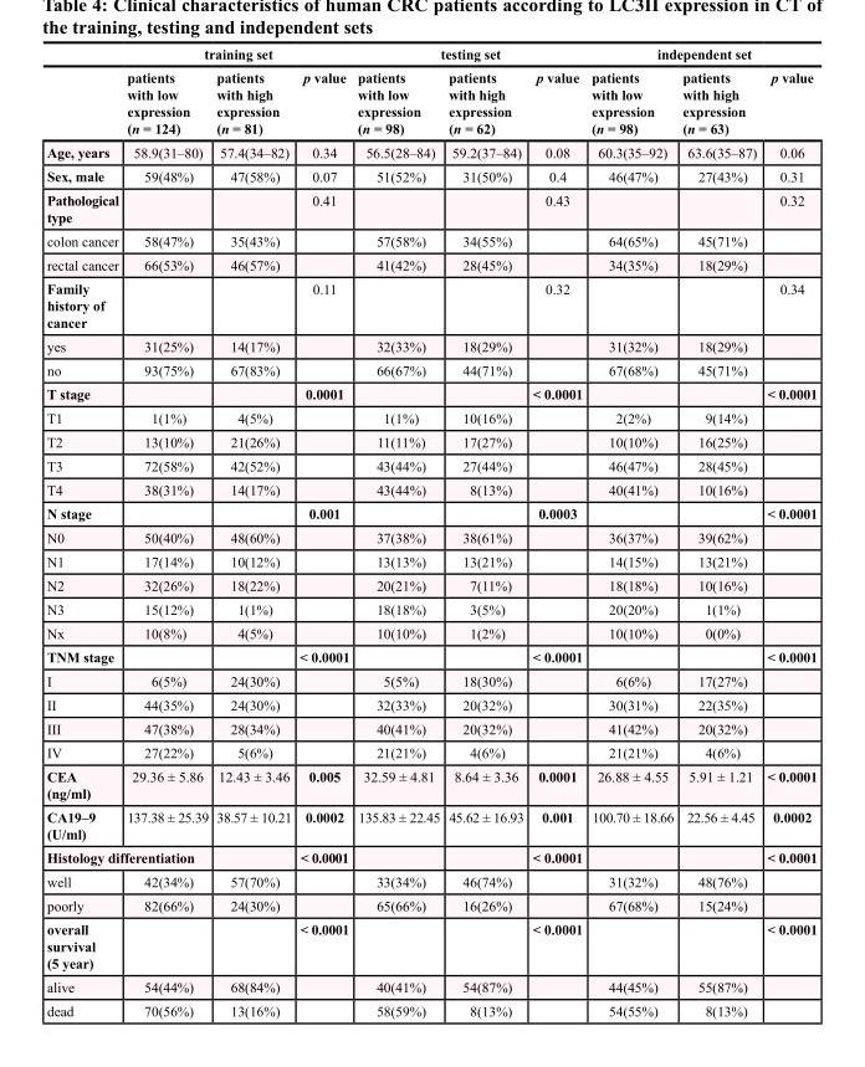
<table><thead><tr><td rowspan="2"></td><td colspan="3">training set</td><td colspan="3">testing set</td><td colspan="3">independent set</td></tr><tr><td>patients with low expression (n = 124)</td><td>patients with high expression (n = 81)</td><td>p value</td><td>patients with low expression (n = 98)</td><td>patients with high expression (n = 62)</td><td>p value</td><td>patients with low expression (n = 98)</td><td>patients with high expression (n = 63)</td><td>p value</td></tr></thead><tbody><tr><td>Age, years</td><td>58.9(31–80)</td><td>57.4(34–82)</td><td>0.34</td><td>56.5(28–84)</td><td>59.2(37–84)</td><td>0.08</td><td>60.3(35–92)</td><td>63.6(35–87)</td><td>0.06</td></tr><tr><td>Sex, male</td><td>59(48%)</td><td>47(58%)</td><td>0.07</td><td>51(52%)</td><td>31(50%)</td><td>0.4</td><td>46(47%)</td><td>27(43%)</td><td>0.31</td></tr><tr><td>Pathological type</td><td></td><td></td><td>0.41</td><td></td><td></td><td>0.43</td><td></td><td></td><td>0.32</td></tr><tr><td>colon cancer</td><td>58(47%)</td><td>35(43%)</td><td></td><td>57(58%)</td><td>34(55%)</td><td></td><td>64(65%)</td><td>45(71%)</td><td></td></tr><tr><td>rectal cancer</td><td>66(53%)</td><td>46(57%)</td><td></td><td>41(42%)</td><td>28(45%)</td><td></td><td>34(35%)</td><td>18(29%)</td><td></td></tr><tr><td>Family history of cancer</td><td></td><td></td><td>0.11</td><td></td><td></td><td>0.32</td><td></td><td></td><td>0.34</td></tr><tr><td>yes</td><td>31(25%)</td><td>14(17%)</td><td></td><td>32(33%)</td><td>18(29%)</td><td></td><td>31(32%)</td><td>18(29%)</td><td></td></tr><tr><td>no</td><td>93(75%)</td><td>67(83%)</td><td></td><td>66(67%)</td><td>44(71%)</td><td></td><td>67(68%)</td><td>45(71%)</td><td></td></tr><tr><td>T stage</td><td></td><td></td><td>0.0001</td><td></td><td></td><td>&lt; 0.0001</td><td></td><td></td><td>&lt; 0.0001</td></tr><tr><td>T1</td><td>1(1%)</td><td>4(5%)</td><td></td><td>1(1%)</td><td>10(16%)</td><td></td><td>2(2%)</td><td>9(14%)</td><td></td></tr><tr><td>T2</td><td>13(10%)</td><td>21(26%)</td><td></td><td>11(11%)</td><td>17(27%)</td><td></td><td>10(10%)</td><td>16(25%)</td><td></td></tr><tr><td>T3</td><td>72(58%)</td><td>42(52%)</td><td></td><td>43(44%)</td><td>27(44%)</td><td></td><td>46(47%)</td><td>28(45%)</td><td></td></tr><tr><td>T4</td><td>38(31%)</td><td>14(17%)</td><td></td><td>43(44%)</td><td>8(13%)</td><td></td><td>40(41%)</td><td>10(16%)</td><td></td></tr><tr><td>N stage</td><td></td><td></td><td>0.001</td><td></td><td></td><td>0.0003</td><td></td><td></td><td>&lt; 0.0001</td></tr><tr><td>N0</td><td>50(40%)</td><td>48(60%)</td><td></td><td>37(38%)</td><td>38(61%)</td><td></td><td>36(37%)</td><td>39(62%)</td><td></td></tr><tr><td>N1</td><td>17(14%)</td><td>10(12%)</td><td></td><td>13(13%)</td><td>13(21%)</td><td></td><td>14(15%)</td><td>13(21%)</td><td></td></tr><tr><td>N2</td><td>32(26%)</td><td>18(22%)</td><td></td><td>20(21%)</td><td>7(11%)</td><td></td><td>18(18%)</td><td>10(16%)</td><td></td></tr><tr><td>N3</td><td>15(12%)</td><td>1(1%)</td><td></td><td>18(18%)</td><td>3(5%)</td><td></td><td>20(20%)</td><td>1(1%)</td><td></td></tr><tr><td>Nx</td><td>10(8%)</td><td>4(5%)</td><td></td><td>10(10%)</td><td>1(2%)</td><td></td><td>10(10%)</td><td>0(0%)</td><td></td></tr><tr><td>TNM stage</td><td></td><td></td><td>&lt; 0.0001</td><td></td><td></td><td>&lt; 0.0001</td><td></td><td></td><td>&lt; 0.0001</td></tr><tr><td>I</td><td>6(5%)</td><td>24(30%)</td><td></td><td>5(5%)</td><td>18(30%)</td><td></td><td>6(6%)</td><td>17(27%)</td><td></td></tr><tr><td>II</td><td>44(35%)</td><td>24(30%)</td><td></td><td>32(33%)</td><td>20(32%)</td><td></td><td>30(31%)</td><td>22(35%)</td><td></td></tr><tr><td>III</td><td>47(38%)</td><td>28(34%)</td><td></td><td>40(41%)</td><td>20(32%)</td><td></td><td>41(42%)</td><td>20(32%)</td><td></td></tr><tr><td>IV</td><td>27(22%)</td><td>5(6%)</td><td></td><td>21(21%)</td><td>4(6%)</td><td></td><td>21(21%)</td><td>4(6%)</td><td></td></tr><tr><td>CEA (ng/ml)</td><td>29.36 ± 5.86</td><td>12.43 ± 3.46</td><td>0.005</td><td>32.59 ± 4.81</td><td>8.64 ± 3.36</td><td>0.0001</td><td>26.88 ± 4.55</td><td>5.91 ± 1.21</td><td>&lt; 0.0001</td></tr><tr><td>CA19–9 (U/ml)</td><td>137.38 ± 25.39</td><td>38.57 ± 10.21</td><td>0.0002</td><td>135.83 ± 22.45</td><td>45.62 ± 16.93</td><td>0.001</td><td>100.70 ± 18.66</td><td>22.56 ± 4.45</td><td>0.0002</td></tr><tr><td colspan="2">Histology differentiation</td><td></td><td>&lt; 0.0001</td><td></td><td></td><td>&lt; 0.0001</td><td></td><td></td><td>&lt; 0.0001</td></tr><tr><td>well</td><td>42(34%)</td><td>57(70%)</td><td></td><td>33(34%)</td><td>46(74%)</td><td></td><td>31(32%)</td><td>48(76%)</td><td></td></tr><tr><td>poorly</td><td>82(66%)</td><td>24(30%)</td><td></td><td>65(66%)</td><td>16(26%)</td><td></td><td>67(68%)</td><td>15(24%)</td><td></td></tr><tr><td>overall survival (5 year)</td><td></td><td></td><td>&lt; 0.0001</td><td></td><td></td><td>&lt; 0.0001</td><td></td><td></td><td>&lt; 0.0001</td></tr><tr><td>alive</td><td>54(44%)</td><td>68(84%)</td><td></td><td>40(41%)</td><td>54(87%)</td><td></td><td>44(45%)</td><td>55(87%)</td><td></td></tr><tr><td>dead</td><td>70(56%)</td><td>13(16%)</td><td></td><td>58(59%)</td><td>8(13%)</td><td></td><td>54(55%)</td><td>8(13%)</td><td></td></tr></tbody></table>